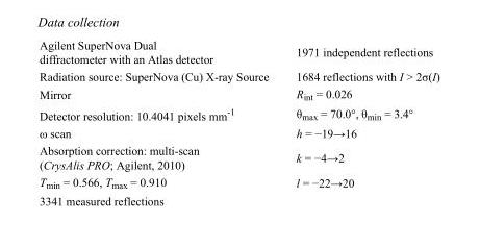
<table><tbody><tr><td>Agilent SuperNova Dual diffractometer with an Atlas detector</td><td>1971 independent reflections</td></tr><tr><td>Radiation source: SuperNova (Cu) X-ray Source</td><td>1684 reflections with I &gt; 2σ(I)</td></tr><tr><td>Mirror</td><td>R<sub>int</sub> = 0.026</td></tr><tr><td>Detector resolution: 10.4041 pixels mm<sup>-1</sup></td><td>θ<sub>max</sub> = 70.0°, θ<sub>min</sub> = 3.4°</td></tr><tr><td>ω scan</td><td>h = −19→16</td></tr><tr><td>Absorption correction: multi-scan (CrysAlis PRO; Agilent, 2010)</td><td>k = −4→2</td></tr><tr><td>T<sub>min</sub> = 0.566, T<sub>max</sub> = 0.910</td><td>l = −22→20</td></tr><tr><td>3341 measured reflections</td><td></td></tr></tbody></table>